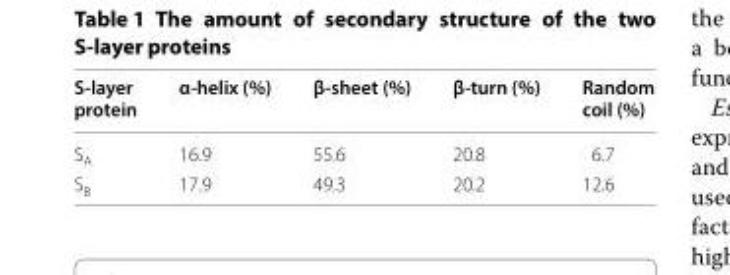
<table><thead><tr><td>S‑layer protein</td><td>α‑helix (%)</td><td>β‑sheet (%)</td><td>β‑turn (%)</td><td>Random coil (%)</td></tr></thead><tbody><tr><td>S<sub>A</sub></td><td>16.9</td><td>55.6</td><td>20.8</td><td>6.7</td></tr><tr><td>S<sub>B</sub></td><td>17.9</td><td>49.3</td><td>20.2</td><td>12.6</td></tr></tbody></table>